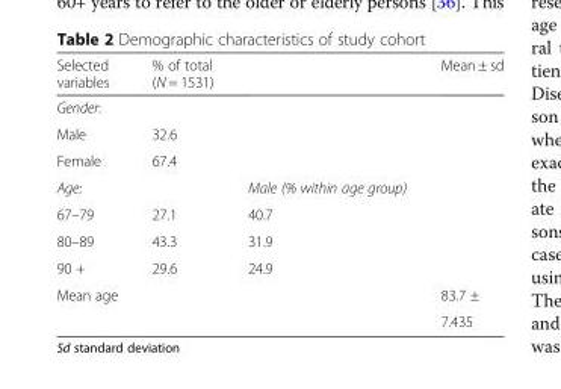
<table><thead><tr><td>Selected variables</td><td>% of total (N = 1531)</td><td></td><td>Mean ± sd</td></tr></thead><tbody><tr><td colspan="4">Gender:</td></tr><tr><td>Male</td><td>32.6</td><td></td><td></td></tr><tr><td>Female</td><td>67.4</td><td></td><td></td></tr><tr><td>Age:</td><td></td><td>Male (% within age group)</td><td></td></tr><tr><td>67–79</td><td>27.1</td><td>40.7</td><td></td></tr><tr><td>80–89</td><td>43.3</td><td>31.9</td><td></td></tr><tr><td>90 +</td><td>29.6</td><td>24.9</td><td></td></tr><tr><td rowspan="2">Mean age</td><td></td><td></td><td>83.7 ±</td></tr><tr><td></td><td></td><td>7.435</td></tr></tbody></table>